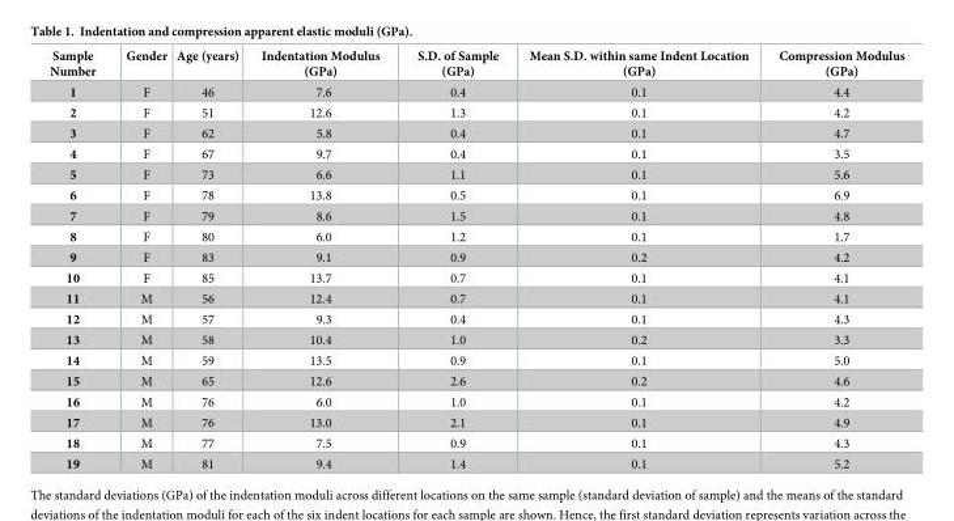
<table><thead><tr><td>Sample Number</td><td>Gender</td><td>Age (years)</td><td>Indentation Modulus (GPa)</td><td>S.D. of Sample (GPa)</td><td>Mean S.D. within same Indent Location (GPa)</td><td>Compression Modulus (GPa)</td></tr></thead><tbody><tr><td>1</td><td>F</td><td>46</td><td>7.6</td><td>0.4</td><td>0.1</td><td>4.4</td></tr><tr><td>2</td><td>F</td><td>51</td><td>12.6</td><td>1.3</td><td>0.1</td><td>4.2</td></tr><tr><td>3</td><td>F</td><td>62</td><td>5.8</td><td>0.4</td><td>0.1</td><td>4.7</td></tr><tr><td>4</td><td>F</td><td>67</td><td>9.7</td><td>0.4</td><td>0.1</td><td>3.5</td></tr><tr><td>5</td><td>F</td><td>73</td><td>6.6</td><td>1.1</td><td>0.1</td><td>5.6</td></tr><tr><td>6</td><td>F</td><td>78</td><td>13.8</td><td>0.5</td><td>0.1</td><td>6.9</td></tr><tr><td>7</td><td>F</td><td>79</td><td>8.6</td><td>1.5</td><td>0.1</td><td>4.8</td></tr><tr><td>8</td><td>F</td><td>80</td><td>6.0</td><td>1.2</td><td>0.1</td><td>1.7</td></tr><tr><td>9</td><td>F</td><td>83</td><td>9.1</td><td>0.9</td><td>0.2</td><td>4.2</td></tr><tr><td>10</td><td>F</td><td>85</td><td>13.7</td><td>0.7</td><td>0.1</td><td>4.1</td></tr><tr><td>11</td><td>M</td><td>56</td><td>12.4</td><td>0.7</td><td>0.1</td><td>4.1</td></tr><tr><td>12</td><td>M</td><td>57</td><td>9.3</td><td>0.4</td><td>0.1</td><td>4.3</td></tr><tr><td>13</td><td>M</td><td>58</td><td>10.4</td><td>1.0</td><td>0.2</td><td>3.3</td></tr><tr><td>14</td><td>M</td><td>59</td><td>13.5</td><td>0.9</td><td>0.1</td><td>5.0</td></tr><tr><td>15</td><td>M</td><td>65</td><td>12.6</td><td>2.6</td><td>0.2</td><td>4.6</td></tr><tr><td>16</td><td>M</td><td>76</td><td>6.0</td><td>1.0</td><td>0.1</td><td>4.2</td></tr><tr><td>17</td><td>M</td><td>76</td><td>13.0</td><td>2.1</td><td>0.1</td><td>4.9</td></tr><tr><td>18</td><td>M</td><td>77</td><td>7.5</td><td>0.9</td><td>0.1</td><td>4.3</td></tr><tr><td>19</td><td>M</td><td>81</td><td>9.4</td><td>1.4</td><td>0.1</td><td>5.2</td></tr></tbody></table>